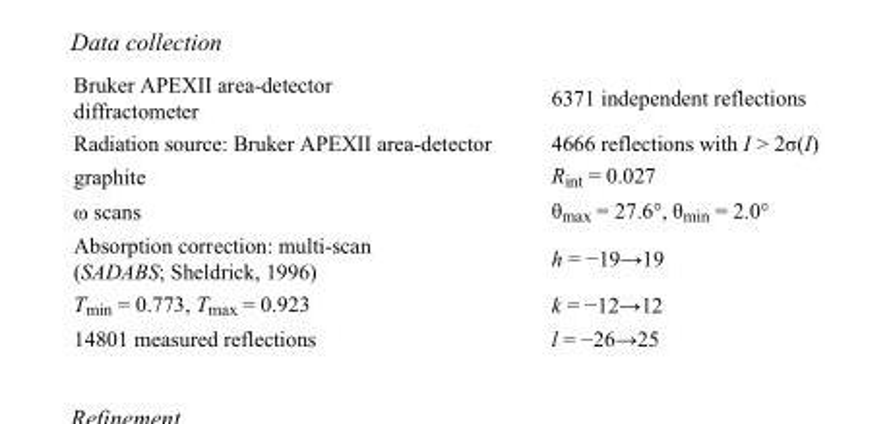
<table><tbody><tr><td>Bruker APEXII area-detector diffractometer</td><td>6371 independent reflections</td></tr><tr><td>Radiation source: Bruker APEXII area-detector</td><td>4666 reflections with I &gt; 2σ(I)</td></tr><tr><td>graphite</td><td>R<sub>int</sub> = 0.027</td></tr><tr><td>ω scans</td><td>θ<sub>max</sub> = 27.6°, θ<sub>min</sub> = 2.0°</td></tr><tr><td>Absorption correction: multi-scan (SADABS; Sheldrick, 1996)</td><td>h = −19→19</td></tr><tr><td>T<sub>min</sub> = 0.773, T<sub>max</sub> = 0.923</td><td>k = −12→12</td></tr><tr><td>14801 measured reflections</td><td>l = −26→25</td></tr></tbody></table>